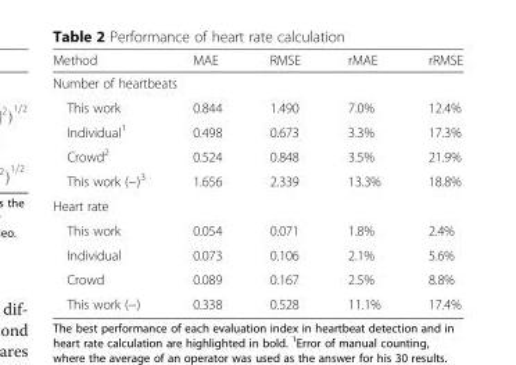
<table><thead><tr><td>Method</td><td>MAE</td><td>RMSE</td><td>rMAE</td><td>rRMSE</td></tr></thead><tbody><tr><td colspan="5">Number of heartbeats</td></tr><tr><td>This work</td><td>0.844</td><td>1.490</td><td>7.0%</td><td>12.4%</td></tr><tr><td>Individual<sup>1</sup></td><td>0.498</td><td>0.673</td><td>3.3%</td><td>17.3%</td></tr><tr><td>Crowd<sup>2</sup></td><td>0.524</td><td>0.848</td><td>3.5%</td><td>21.9%</td></tr><tr><td>This work (−)<sup>3</sup></td><td>1.656</td><td>2.339</td><td>13.3%</td><td>18.8%</td></tr><tr><td colspan="5">Heart rate</td></tr><tr><td>This work</td><td>0.054</td><td>0.071</td><td>1.8%</td><td>2.4%</td></tr><tr><td>Individual</td><td>0.073</td><td>0.106</td><td>2.1%</td><td>5.6%</td></tr><tr><td>Crowd</td><td>0.089</td><td>0.167</td><td>2.5%</td><td>8.8%</td></tr><tr><td>This work (−)</td><td>0.338</td><td>0.528</td><td>11.1%</td><td>17.4%</td></tr></tbody></table>